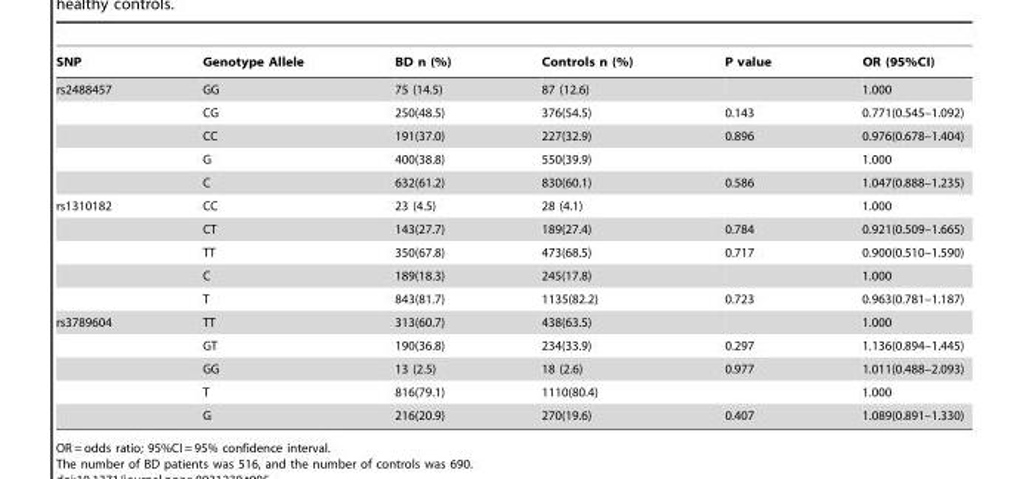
<table><thead><tr><td>SNP</td><td>Genotype Allele</td><td>BD n (%)</td><td>Controls n (%)</td><td>P value</td><td>OR (95%CI)</td></tr></thead><tbody><tr><td rowspan="5">rs2488457</td><td>GG</td><td>75 (14.5)</td><td>87 (12.6)</td><td></td><td>1.000</td></tr><tr><td>CG</td><td>250(48.5)</td><td>376(54.5)</td><td>0.143</td><td>0.771(0.545–1.092)</td></tr><tr><td>CC</td><td>191(37.0)</td><td>227(32.9)</td><td>0.896</td><td>0.976(0.678–1.404)</td></tr><tr><td>G</td><td>400(38.8)</td><td>550(39.9)</td><td></td><td>1.000</td></tr><tr><td>C</td><td>632(61.2)</td><td>830(60.1)</td><td>0.586</td><td>1.047(0.888–1.235)</td></tr><tr><td rowspan="5">rs1310182</td><td>CC</td><td>23 (4.5)</td><td>28 (4.1)</td><td></td><td>1.000</td></tr><tr><td>CT</td><td>143(27.7)</td><td>189(27.4)</td><td>0.784</td><td>0.921(0.509–1.665)</td></tr><tr><td>TT</td><td>350(67.8)</td><td>473(68.5)</td><td>0.717</td><td>0.900(0.510–1.590)</td></tr><tr><td>C</td><td>189(18.3)</td><td>245(17.8)</td><td></td><td>1.000</td></tr><tr><td>T</td><td>843(81.7)</td><td>1135(82.2)</td><td>0.723</td><td>0.963(0.781–1.187)</td></tr><tr><td rowspan="5">rs3789604</td><td>TT</td><td>313(60.7)</td><td>438(63.5)</td><td></td><td>1.000</td></tr><tr><td>GT</td><td>190(36.8)</td><td>234(33.9)</td><td>0.297</td><td>1.136(0.894–1.445)</td></tr><tr><td>GG</td><td>13 (2.5)</td><td>18 (2.6)</td><td>0.977</td><td>1.011(0.488–2.093)</td></tr><tr><td>T</td><td>816(79.1)</td><td>1110(80.4)</td><td></td><td>1.000</td></tr><tr><td>G</td><td>216(20.9)</td><td>270(19.6)</td><td>0.407</td><td>1.089(0.891–1.330)</td></tr></tbody></table>